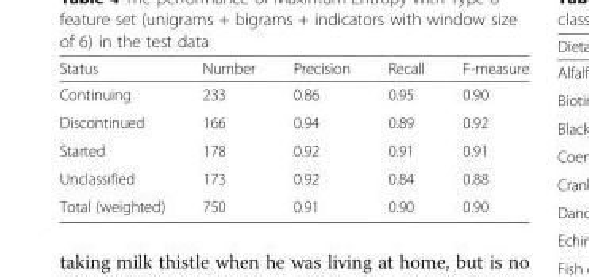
<table><thead><tr><td>Status</td><td>Number</td><td>Precision</td><td>Recall</td><td>F-measure</td></tr></thead><tbody><tr><td>Continuing</td><td>233</td><td>0.86</td><td>0.95</td><td>0.90</td></tr><tr><td>Discontinued</td><td>166</td><td>0.94</td><td>0.89</td><td>0.92</td></tr><tr><td>Started</td><td>178</td><td>0.92</td><td>0.91</td><td>0.91</td></tr><tr><td>Unclassified</td><td>173</td><td>0.92</td><td>0.84</td><td>0.88</td></tr><tr><td>Total (weighted)</td><td>750</td><td>0.91</td><td>0.90</td><td>0.90</td></tr></tbody></table>